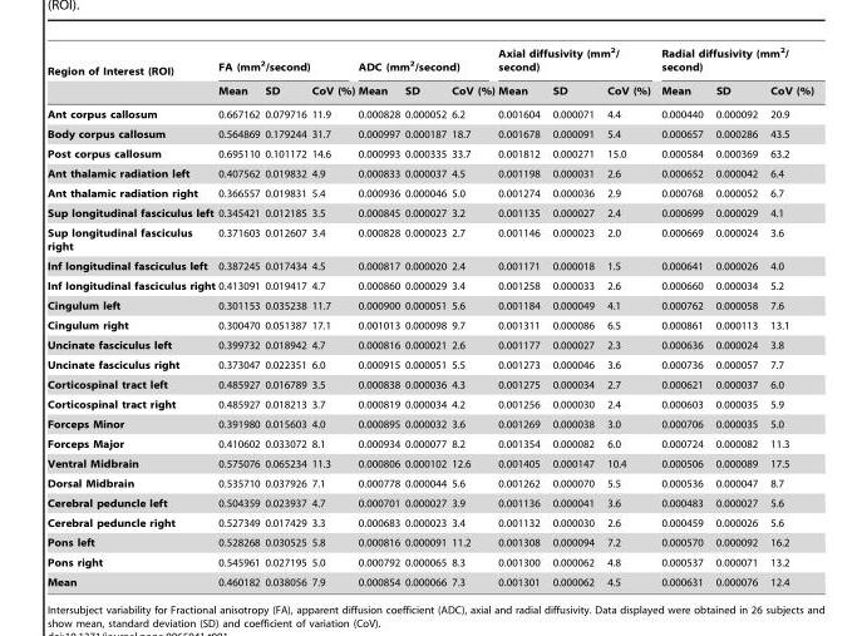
<table><thead><tr><td rowspan="2">Region of Interest (ROI)</td><td colspan="3">FA (mm<sup>2</sup>/second)</td><td colspan="3">ADC (mm<sup>2</sup>/second)</td><td colspan="3">Axial diffusivity (mm<sup>2</sup>/ second)</td><td colspan="3">Radial diffusivity (mm<sup>2</sup>/ second)</td></tr><tr><td>Mean</td><td>SD</td><td>CoV (%)</td><td>Mean</td><td>SD</td><td>CoV (%)</td><td>Mean</td><td>SD</td><td>CoV (%)</td><td>Mean</td><td>SD</td><td>CoV (%)</td></tr></thead><tbody><tr><td>Ant corpus callosum</td><td>0.667162</td><td>0.079716</td><td>11.9</td><td>0.000828</td><td>0.000052</td><td>6.2</td><td>0.001604</td><td>0.000071</td><td>4.4</td><td>0.000440</td><td>0.000092</td><td>20.9</td></tr><tr><td>Body corpus callosum</td><td>0.564869</td><td>0.179244</td><td>31.7</td><td>0.000997</td><td>0.000187</td><td>18.7</td><td>0.001678</td><td>0.000091</td><td>5.4</td><td>0.000657</td><td>0.000286</td><td>43.5</td></tr><tr><td>Post corpus callosum</td><td>0.695110</td><td>0.101172</td><td>14.6</td><td>0.000993</td><td>0.000335</td><td>33.7</td><td>0.001812</td><td>0.000271</td><td>15.0</td><td>0.000584</td><td>0.000369</td><td>63.2</td></tr><tr><td>Ant thalamic radiation left</td><td>0.407562</td><td>0.019832</td><td>4.9</td><td>0.000833</td><td>0.000037</td><td>4.5</td><td>0.001198</td><td>0.000031</td><td>2.6</td><td>0.000652</td><td>0.000042</td><td>6.4</td></tr><tr><td>Ant thalamic radiation right</td><td>0.366557</td><td>0.019831</td><td>5.4</td><td>0.000936</td><td>0.000046</td><td>5.0</td><td>0.001274</td><td>0.000036</td><td>2.9</td><td>0.000768</td><td>0.000052</td><td>6.7</td></tr><tr><td>Sup longitudinal fasciculus left</td><td>0.345421</td><td>0.012185</td><td>3.5</td><td>0.000845</td><td>0.000027</td><td>3.2</td><td>0.001135</td><td>0.000027</td><td>2.4</td><td>0.000699</td><td>0.000029</td><td>4.1</td></tr><tr><td>Sup longitudinal fasciculus right</td><td>0.371603</td><td>0.012607</td><td>3.4</td><td>0.000828</td><td>0.000023</td><td>2.7</td><td>0.001146</td><td>0.000023</td><td>2.0</td><td>0.000669</td><td>0.000024</td><td>3.6</td></tr><tr><td>Inf longitudinal fasciculus left</td><td>0.387245</td><td>0.017434</td><td>4.5</td><td>0.000817</td><td>0.000020</td><td>2.4</td><td>0.001171</td><td>0.000018</td><td>1.5</td><td>0.000641</td><td>0.000026</td><td>4.0</td></tr><tr><td>Inf longitudinal fasciculus right</td><td>0.413091</td><td>0.019417</td><td>4.7</td><td>0.000860</td><td>0.000029</td><td>3.4</td><td>0.001258</td><td>0.000033</td><td>2.6</td><td>0.000660</td><td>0.000034</td><td>5.2</td></tr><tr><td>Cingulum left</td><td>0.301153</td><td>0.035238</td><td>11.7</td><td>0.000900</td><td>0.000051</td><td>5.6</td><td>0.001184</td><td>0.000049</td><td>4.1</td><td>0.000762</td><td>0.000058</td><td>7.6</td></tr><tr><td>Cingulum right</td><td>0.300470</td><td>0.051387</td><td>17.1</td><td>0.001013</td><td>0.000098</td><td>9.7</td><td>0.001311</td><td>0.000086</td><td>6.5</td><td>0.000861</td><td>0.000113</td><td>13.1</td></tr><tr><td>Uncinate fasciculus left</td><td>0.399732</td><td>0.018942</td><td>4.7</td><td>0.000816</td><td>0.000021</td><td>2.6</td><td>0.001177</td><td>0.000027</td><td>2.3</td><td>0.000636</td><td>0.000024</td><td>3.8</td></tr><tr><td>Uncinate fasciculus right</td><td>0.373047</td><td>0.022351</td><td>6.0</td><td>0.000915</td><td>0.000051</td><td>5.5</td><td>0.001273</td><td>0.000046</td><td>3.6</td><td>0.000736</td><td>0.000057</td><td>7.7</td></tr><tr><td>Corticospinal tract left</td><td>0.485927</td><td>0.016789</td><td>3.5</td><td>0.000838</td><td>0.000036</td><td>4.3</td><td>0.001275</td><td>0.000034</td><td>2.7</td><td>0.000621</td><td>0.000037</td><td>6.0</td></tr><tr><td>Corticospinal tract right</td><td>0.485927</td><td>0.018213</td><td>3.7</td><td>0.000819</td><td>0.000034</td><td>4.2</td><td>0.001256</td><td>0.000030</td><td>2.4</td><td>0.000603</td><td>0.000035</td><td>5.9</td></tr><tr><td>Forceps Minor</td><td>0.391980</td><td>0.015603</td><td>4.0</td><td>0.000895</td><td>0.000032</td><td>3.6</td><td>0.001269</td><td>0.000038</td><td>3.0</td><td>0.000706</td><td>0.000035</td><td>5.0</td></tr><tr><td>Forceps Major</td><td>0.410602</td><td>0.033072</td><td>8.1</td><td>0.000934</td><td>0.000077</td><td>8.2</td><td>0.001354</td><td>0.000082</td><td>6.0</td><td>0.000724</td><td>0.000082</td><td>11.3</td></tr><tr><td>Ventral Midbrain</td><td>0.575076</td><td>0.065234</td><td>11.3</td><td>0.000806</td><td>0.000102</td><td>12.6</td><td>0.001405</td><td>0.000147</td><td>10.4</td><td>0.000506</td><td>0.000089</td><td>17.5</td></tr><tr><td>Dorsal Midbrain</td><td>0.535710</td><td>0.037926</td><td>7.1</td><td>0.000778</td><td>0.000044</td><td>5.6</td><td>0.001262</td><td>0.000070</td><td>5.5</td><td>0.000536</td><td>0.000047</td><td>8.7</td></tr><tr><td>Cerebral peduncle left</td><td>0.504359</td><td>0.023937</td><td>4.7</td><td>0.000701</td><td>0.000027</td><td>3.9</td><td>0.001136</td><td>0.000041</td><td>3.6</td><td>0.000483</td><td>0.000027</td><td>5.6</td></tr><tr><td>Cerebral peduncle right</td><td>0.527349</td><td>0.017429</td><td>3.3</td><td>0.000683</td><td>0.000023</td><td>3.4</td><td>0.001132</td><td>0.000030</td><td>2.6</td><td>0.000459</td><td>0.000026</td><td>5.6</td></tr><tr><td>Pons left</td><td>0.528268</td><td>0.030525</td><td>5.8</td><td>0.000816</td><td>0.000091</td><td>11.2</td><td>0.001308</td><td>0.000094</td><td>7.2</td><td>0.000570</td><td>0.000092</td><td>16.2</td></tr><tr><td>Pons right</td><td>0.545961</td><td>0.027195</td><td>5.0</td><td>0.000792</td><td>0.000065</td><td>8.3</td><td>0.001300</td><td>0.000062</td><td>4.8</td><td>0.000537</td><td>0.000071</td><td>13.2</td></tr><tr><td>Mean</td><td>0.460182</td><td>0.038056</td><td>7.9</td><td>0.000854</td><td>0.000066</td><td>7.3</td><td>0.001301</td><td>0.000062</td><td>4.5</td><td>0.000631</td><td>0.000076</td><td>12.4</td></tr></tbody></table>